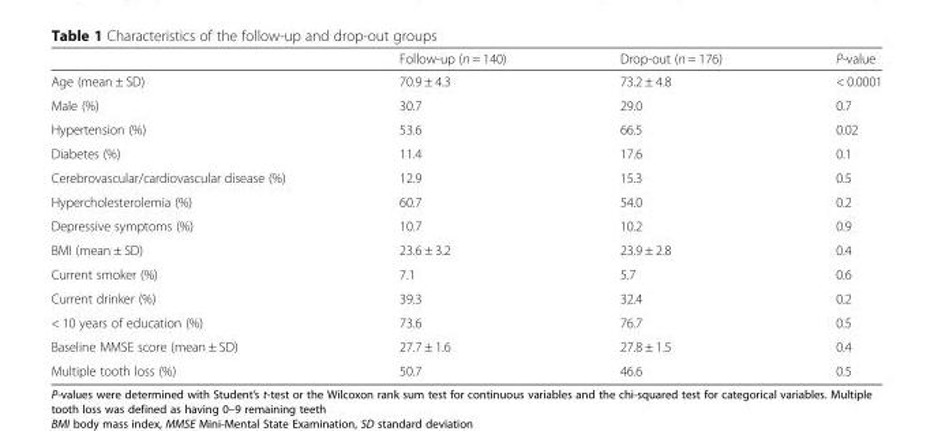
<table><thead><tr><td></td><td>Follow-up (n = 140)</td><td>Drop-out (n = 176)</td><td>P-value</td></tr></thead><tbody><tr><td>Age (mean ± SD)</td><td>70.9 ± 4.3</td><td>73.2 ± 4.8</td><td>&lt; 0.0001</td></tr><tr><td>Male (%)</td><td>30.7</td><td>29.0</td><td>0.7</td></tr><tr><td>Hypertension (%)</td><td>53.6</td><td>66.5</td><td>0.02</td></tr><tr><td>Diabetes (%)</td><td>11.4</td><td>17.6</td><td>0.1</td></tr><tr><td>Cerebrovascular/cardiovascular disease (%)</td><td>12.9</td><td>15.3</td><td>0.5</td></tr><tr><td>Hypercholesterolemia (%)</td><td>60.7</td><td>54.0</td><td>0.2</td></tr><tr><td>Depressive symptoms (%)</td><td>10.7</td><td>10.2</td><td>0.9</td></tr><tr><td>BMI (mean ± SD)</td><td>23.6 ± 3.2</td><td>23.9 ± 2.8</td><td>0.4</td></tr><tr><td>Current smoker (%)</td><td>7.1</td><td>5.7</td><td>0.6</td></tr><tr><td>Current drinker (%)</td><td>39.3</td><td>32.4</td><td>0.2</td></tr><tr><td>&lt; 10 years of education (%)</td><td>73.6</td><td>76.7</td><td>0.5</td></tr><tr><td>Baseline MMSE score (mean ± SD)</td><td>27.7 ± 1.6</td><td>27.8 ± 1.5</td><td>0.4</td></tr><tr><td>Multiple tooth loss (%)</td><td>50.7</td><td>46.6</td><td>0.5</td></tr></tbody></table>